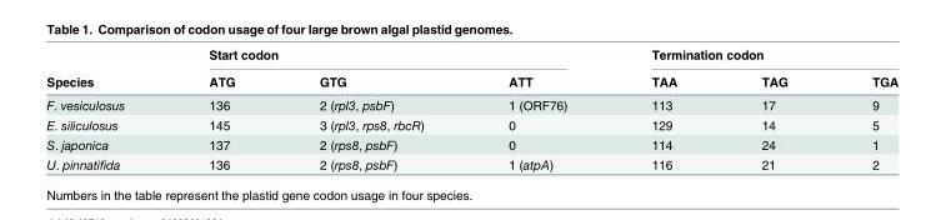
<table><thead><tr><td rowspan="2">Species</td><td colspan="3">Start codon</td><td colspan="3">Termination codon</td></tr><tr><td>ATG</td><td>GTG</td><td>ATT</td><td>TAA</td><td>TAG</td><td>TGA</td></tr></thead><tbody><tr><td>F. vesiculosus</td><td>136</td><td>2 (rpl3, psbF)</td><td>1 (ORF76)</td><td>113</td><td>17</td><td>9</td></tr><tr><td>E. siliculosus</td><td>145</td><td>3 (rpl3, rps8, rbcR)</td><td>0</td><td>129</td><td>14</td><td>5</td></tr><tr><td>S. japonica</td><td>137</td><td>2 (rps8, psbF)</td><td>0</td><td>114</td><td>24</td><td>1</td></tr><tr><td>U. pinnatifida</td><td>136</td><td>2 (rps8, psbF)</td><td>1 (atpA)</td><td>116</td><td>21</td><td>2</td></tr></tbody></table>